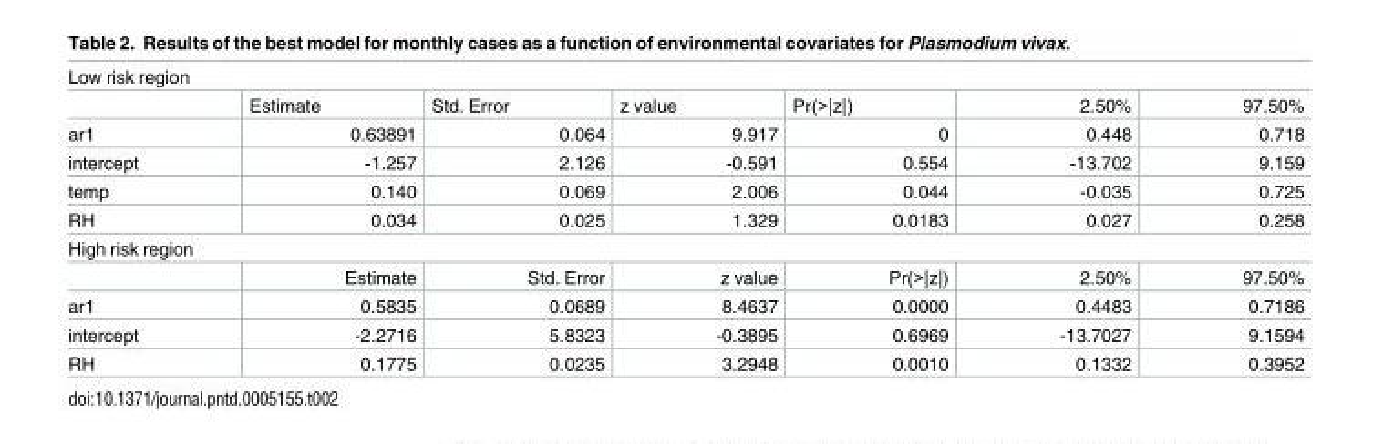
<table><tbody><tr><td colspan="7">Low risk region</td></tr><tr><td></td><td>Estimate</td><td>Std. Error</td><td>z value</td><td>Pr(&gt;|z|)</td><td>2.50%</td><td>97.50%</td></tr><tr><td>ar1</td><td>0.63891</td><td>0.064</td><td>9.917</td><td>0</td><td>0.448</td><td>0.718</td></tr><tr><td>intercept</td><td>-1.257</td><td>2.126</td><td>-0.591</td><td>0.554</td><td>-13.702</td><td>9.159</td></tr><tr><td>temp</td><td>0.140</td><td>0.069</td><td>2.006</td><td>0.044</td><td>-0.035</td><td>0.725</td></tr><tr><td>RH</td><td>0.034</td><td>0.025</td><td>1.329</td><td>0.0183</td><td>0.027</td><td>0.258</td></tr><tr><td colspan="7">High risk region</td></tr><tr><td></td><td>Estimate</td><td>Std. Error</td><td>z value</td><td>Pr(&gt;|z|)</td><td>2.50%</td><td>97.50%</td></tr><tr><td>ar1</td><td>0.5835</td><td>0.0689</td><td>8.4637</td><td>0.0000</td><td>0.4483</td><td>0.7186</td></tr><tr><td>intercept</td><td>-2.2716</td><td>5.8323</td><td>-0.3895</td><td>0.6969</td><td>-13.7027</td><td>9.1594</td></tr><tr><td>RH</td><td>0.1775</td><td>0.0235</td><td>3.2948</td><td>0.0010</td><td>0.1332</td><td>0.3952</td></tr></tbody></table>